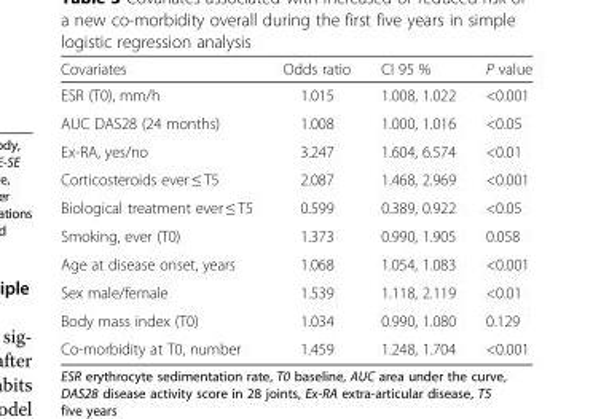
<table><thead><tr><td>Covariates</td><td>Odds ratio</td><td>CI 95 %</td><td>P value</td></tr></thead><tbody><tr><td>ESR (T0), mm/h</td><td>1.015</td><td>1.008, 1.022</td><td>&lt;0.001</td></tr><tr><td>AUC DAS28 (24 months)</td><td>1.008</td><td>1.000, 1.016</td><td>&lt;0.05</td></tr><tr><td>Ex-RA, yes/no</td><td>3.247</td><td>1.604, 6.574</td><td>&lt;0.01</td></tr><tr><td>Corticosteroids ever ≤ T5</td><td>2.087</td><td>1.468, 2.969</td><td>&lt;0.001</td></tr><tr><td>Biological treatment ever ≤ T5</td><td>0.599</td><td>0.389, 0.922</td><td>&lt;0.05</td></tr><tr><td>Smoking, ever (T0)</td><td>1.373</td><td>0.990, 1.905</td><td>0.058</td></tr><tr><td>Age at disease onset, years</td><td>1.068</td><td>1.054, 1.083</td><td>&lt;0.001</td></tr><tr><td>Sex male/female</td><td>1.539</td><td>1.118, 2.119</td><td>&lt;0.01</td></tr><tr><td>Body mass index (T0)</td><td>1.034</td><td>0.990, 1.080</td><td>0.129</td></tr><tr><td>Co-morbidity at T0, number</td><td>1.459</td><td>1.248, 1.704</td><td>&lt;0.001</td></tr></tbody></table>